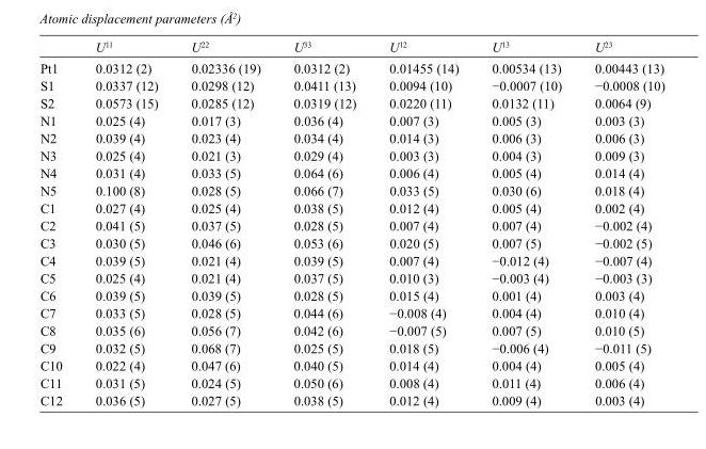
<table><thead><tr><td></td><td>U<sup>11</sup></td><td>U<sup>22</sup></td><td>U<sup>33</sup></td><td>U<sup>12</sup></td><td>U<sup>13</sup></td><td>U<sup>23</sup></td></tr></thead><tbody><tr><td>Pt1</td><td>0.0312 (2)</td><td>0.02336 (19)</td><td>0.0312 (2)</td><td>0.01455 (14)</td><td>0.00534 (13)</td><td>0.00443 (13)</td></tr><tr><td>S1</td><td>0.0337 (12)</td><td>0.0298 (12)</td><td>0.0411 (13)</td><td>0.0094 (10)</td><td>−0.0007 (10)</td><td>−0.0008 (10)</td></tr><tr><td>S2</td><td>0.0573 (15)</td><td>0.0285 (12)</td><td>0.0319 (12)</td><td>0.0220 (11)</td><td>0.0132 (11)</td><td>0.0064 (9)</td></tr><tr><td>N1</td><td>0.025 (4)</td><td>0.017 (3)</td><td>0.036 (4)</td><td>0.007 (3)</td><td>0.005 (3)</td><td>0.003 (3)</td></tr><tr><td>N2</td><td>0.039 (4)</td><td>0.023 (4)</td><td>0.034 (4)</td><td>0.014 (3)</td><td>0.006 (3)</td><td>0.006 (3)</td></tr><tr><td>N3</td><td>0.025 (4)</td><td>0.021 (3)</td><td>0.029 (4)</td><td>0.003 (3)</td><td>0.004 (3)</td><td>0.009 (3)</td></tr><tr><td>N4</td><td>0.031 (4)</td><td>0.033 (5)</td><td>0.064 (6)</td><td>0.006 (4)</td><td>0.005 (4)</td><td>0.014 (4)</td></tr><tr><td>N5</td><td>0.100 (8)</td><td>0.028 (5)</td><td>0.066 (7)</td><td>0.033 (5)</td><td>0.030 (6)</td><td>0.018 (4)</td></tr><tr><td>C1</td><td>0.027 (4)</td><td>0.025 (4)</td><td>0.038 (5)</td><td>0.012 (4)</td><td>0.005 (4)</td><td>0.002 (4)</td></tr><tr><td>C2</td><td>0.041 (5)</td><td>0.037 (5)</td><td>0.028 (5)</td><td>0.007 (4)</td><td>0.007 (4)</td><td>−0.002 (4)</td></tr><tr><td>C3</td><td>0.030 (5)</td><td>0.046 (6)</td><td>0.053 (6)</td><td>0.020 (5)</td><td>0.007 (5)</td><td>−0.002 (5)</td></tr><tr><td>C4</td><td>0.039 (5)</td><td>0.021 (4)</td><td>0.039 (5)</td><td>0.007 (4)</td><td>−0.012 (4)</td><td>−0.007 (4)</td></tr><tr><td>C5</td><td>0.025 (4)</td><td>0.021 (4)</td><td>0.037 (5)</td><td>0.010 (3)</td><td>−0.003 (4)</td><td>−0.003 (3)</td></tr><tr><td>C6</td><td>0.039 (5)</td><td>0.039 (5)</td><td>0.028 (5)</td><td>0.015 (4)</td><td>0.001 (4)</td><td>0.003 (4)</td></tr><tr><td>C7</td><td>0.033 (5)</td><td>0.028 (5)</td><td>0.044 (6)</td><td>−0.008 (4)</td><td>0.004 (4)</td><td>0.010 (4)</td></tr><tr><td>C8</td><td>0.035 (6)</td><td>0.056 (7)</td><td>0.042 (6)</td><td>−0.007 (5)</td><td>0.007 (5)</td><td>0.010 (5)</td></tr><tr><td>C9</td><td>0.032 (5)</td><td>0.068 (7)</td><td>0.025 (5)</td><td>0.018 (5)</td><td>−0.006 (4)</td><td>−0.011 (5)</td></tr><tr><td>C10</td><td>0.022 (4)</td><td>0.047 (6)</td><td>0.040 (5)</td><td>0.014 (4)</td><td>0.004 (4)</td><td>0.005 (4)</td></tr><tr><td>C11</td><td>0.031 (5)</td><td>0.024 (5)</td><td>0.050 (6)</td><td>0.008 (4)</td><td>0.011 (4)</td><td>0.006 (4)</td></tr><tr><td>C12</td><td>0.036 (5)</td><td>0.027 (5)</td><td>0.038 (5)</td><td>0.012 (4)</td><td>0.009 (4)</td><td>0.003 (4)</td></tr></tbody></table>